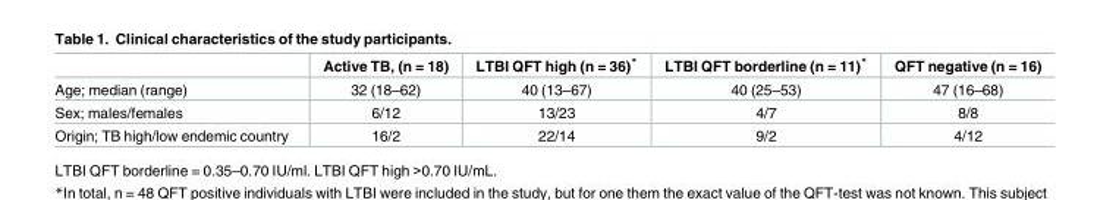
<table><thead><tr><td></td><td>Active TB, (n = 18)</td><td>LTBI QFT high (n = 36)*</td><td>LTBI QFT borderline (n = 11)*</td><td>QFT negative (n = 16)</td></tr></thead><tbody><tr><td>Age; median (range)</td><td>32 (18–62)</td><td>40 (13–67)</td><td>40 (25–53)</td><td>47 (16–68)</td></tr><tr><td>Sex; males/females</td><td>6/12</td><td>13/23</td><td>4/7</td><td>8/8</td></tr><tr><td>Origin; TB high/low endemic country</td><td>16/2</td><td>22/14</td><td>9/2</td><td>4/12</td></tr></tbody></table>